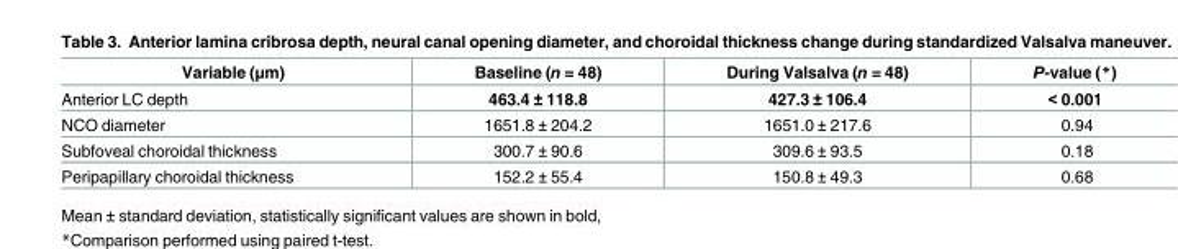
<table><thead><tr><td>Variable (μm)</td><td>Baseline (n = 48)</td><td>During Valsalva (n = 48)</td><td>P-value (*)</td></tr></thead><tbody><tr><td>Anterior LC depth</td><td>463.4 ± 118.8</td><td>427.3 ± 106.4</td><td>&lt; 0.001</td></tr><tr><td>NCO diameter</td><td>1651.8 ± 204.2</td><td>1651.0 ± 217.6</td><td>0.94</td></tr><tr><td>Subfoveal choroidal thickness</td><td>300.7 ± 90.6</td><td>309.6 ± 93.5</td><td>0.18</td></tr><tr><td>Peripapillary choroidal thickness</td><td>152.2 ± 55.4</td><td>150.8 ± 49.3</td><td>0.68</td></tr></tbody></table>